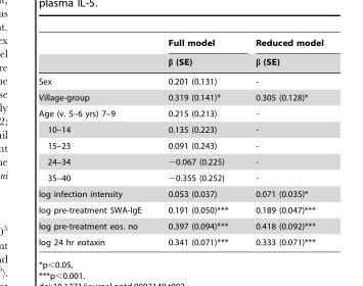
<table><thead><tr><td rowspan="2"></td><td rowspan="2">Full model β (SE)</td><td rowspan="2">Reduced model β (SE)</td></tr><tr></tr></thead><tbody><tr><td>Sex</td><td>0.201 (0.131)</td><td>-</td></tr><tr><td>Village-group</td><td>0.319 (0.141)*</td><td>0.305 (0.128)*</td></tr><tr><td>Age (v. 5–6 yrs) 7–9</td><td>0.215 (0.213)</td><td>-</td></tr><tr><td>10–14</td><td>0.135 (0.223)</td><td>-</td></tr><tr><td>15–23</td><td>0.091 (0.243)</td><td>-</td></tr><tr><td>24–34</td><td>−0.067 (0.225)</td><td>-</td></tr><tr><td>35–40</td><td>−0.355 (0.252)</td><td>-</td></tr><tr><td>log infection intensity</td><td>0.053 (0.037)</td><td>0.071 (0.035)*</td></tr><tr><td>log pre-treatment SWA-IgE</td><td>0.191 (0.050)***</td><td>0.189 (0.047)***</td></tr><tr><td>log pre-treatment eos. no</td><td>0.397 (0.094)***</td><td>0.418 (0.092)***</td></tr><tr><td>log 24 hr eotaxin</td><td>0.341 (0.071)***</td><td>0.333 (0.071)***</td></tr></tbody></table>